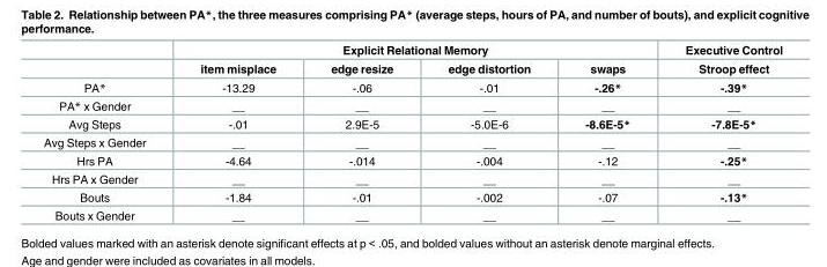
<table><thead><tr><td rowspan="2"></td><td colspan="4">Explicit Relational Memory</td><td rowspan="2">Executive Control Stroop effect</td></tr><tr><td>item misplace</td><td>edge resize</td><td>edge distortion</td><td>swaps</td></tr></thead><tbody><tr><td>PA*</td><td>-13.29</td><td>-.06</td><td>-.01</td><td>-.26*</td><td>-.39*</td></tr><tr><td>PA* x Gender</td><td>__</td><td>__</td><td>__</td><td>__</td><td>__</td></tr><tr><td>Avg Steps</td><td>-.01</td><td>2.9E-5</td><td>-5.0E-6</td><td>-8.6E-5*</td><td>-7.8E-5*</td></tr><tr><td>Avg Steps x Gender</td><td>__</td><td>__</td><td>__</td><td>__</td><td>__</td></tr><tr><td>Hrs PA</td><td>-4.64</td><td>-.014</td><td>-.004</td><td>-.12</td><td>-.25*</td></tr><tr><td>Hrs PA x Gender</td><td>__</td><td>__</td><td>__</td><td>__</td><td>__</td></tr><tr><td>Bouts</td><td>-1.84</td><td>-.01</td><td>-.002</td><td>-.07</td><td>-.13*</td></tr><tr><td>Bouts x Gender</td><td>__</td><td>__</td><td>__</td><td>__</td><td>__</td></tr></tbody></table>